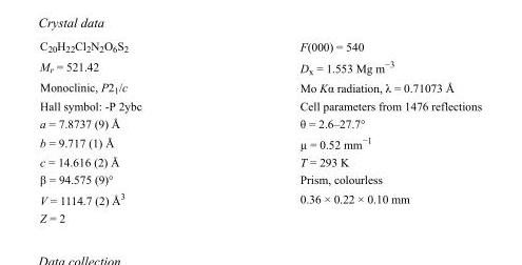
<table><tbody><tr><td>C<sub>20</sub>H<sub>22</sub>Cl<sub>2</sub>N<sub>2</sub>O<sub>6</sub>S<sub>2</sub></td><td>F(000) = 540</td></tr><tr><td>M<sub>r</sub> = 521.42</td><td>D<sub>x</sub> = 1.553 Mg m<sup>−3</sup></td></tr><tr><td>Monoclinic, P2<sub>1</sub>/c</td><td>Mo Kα radiation, λ = 0.71073 Å</td></tr><tr><td>Hall symbol: -P 2ybc</td><td>Cell parameters from 1476 reflections</td></tr><tr><td>a = 7.8737 (9) Å</td><td>θ = 2.6–27.7°</td></tr><tr><td>b = 9.717 (1) Å</td><td>µ = 0.52 mm<sup>−1</sup></td></tr><tr><td>c = 14.616 (2) Å</td><td>T = 293 K</td></tr><tr><td>β = 94.575 (9)°</td><td>Prism, colourless</td></tr><tr><td>V = 1114.7 (2) Å<sup>3</sup></td><td>0.36 × 0.22 × 0.10 mm</td></tr><tr><td>Z = 2</td><td></td></tr></tbody></table>